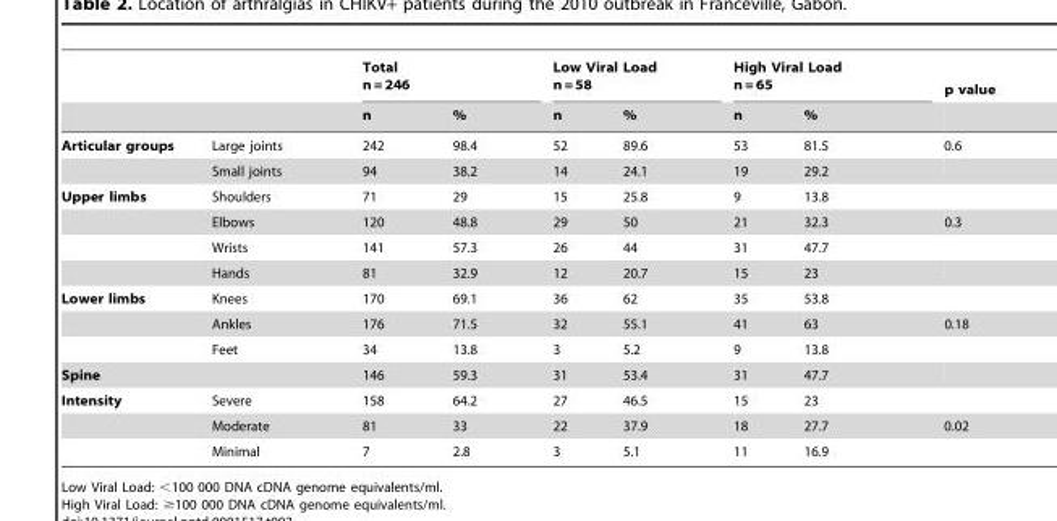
<table><thead><tr><td rowspan="2"></td><td rowspan="2"></td><td colspan="2">Total n = 246</td><td colspan="2">Low Viral Load n = 58</td><td colspan="2">High Viral Load n = 65</td><td rowspan="2">p value</td></tr><tr><td>n</td><td>%</td><td>n</td><td>%</td><td>n</td><td>%</td></tr></thead><tbody><tr><td rowspan="2">Articular groups</td><td>Large joints</td><td>242</td><td>98.4</td><td>52</td><td>89.6</td><td>53</td><td>81.5</td><td>0.6</td></tr><tr><td>Small joints</td><td>94</td><td>38.2</td><td>14</td><td>24.1</td><td>19</td><td>29.2</td><td></td></tr><tr><td rowspan="4">Upper limbs</td><td>Shoulders</td><td>71</td><td>29</td><td>15</td><td>25.8</td><td>9</td><td>13.8</td><td></td></tr><tr><td>Elbows</td><td>120</td><td>48.8</td><td>29</td><td>50</td><td>21</td><td>32.3</td><td>0.3</td></tr><tr><td>Wrists</td><td>141</td><td>57.3</td><td>26</td><td>44</td><td>31</td><td>47.7</td><td></td></tr><tr><td>Hands</td><td>81</td><td>32.9</td><td>12</td><td>20.7</td><td>15</td><td>23</td><td></td></tr><tr><td rowspan="3">Lower limbs</td><td>Knees</td><td>170</td><td>69.1</td><td>36</td><td>62</td><td>35</td><td>53.8</td><td></td></tr><tr><td>Ankles</td><td>176</td><td>71.5</td><td>32</td><td>55.1</td><td>41</td><td>63</td><td>0.18</td></tr><tr><td>Feet</td><td>34</td><td>13.8</td><td>3</td><td>5.2</td><td>9</td><td>13.8</td><td></td></tr><tr><td colspan="2">Spine</td><td>146</td><td>59.3</td><td>31</td><td>53.4</td><td>31</td><td>47.7</td><td></td></tr><tr><td rowspan="3">Intensity</td><td>Severe</td><td>158</td><td>64.2</td><td>27</td><td>46.5</td><td>15</td><td>23</td><td></td></tr><tr><td>Moderate</td><td>81</td><td>33</td><td>22</td><td>37.9</td><td>18</td><td>27.7</td><td>0.02</td></tr><tr><td>Minimal</td><td>7</td><td>2.8</td><td>3</td><td>5.1</td><td>11</td><td>16.9</td><td></td></tr></tbody></table>